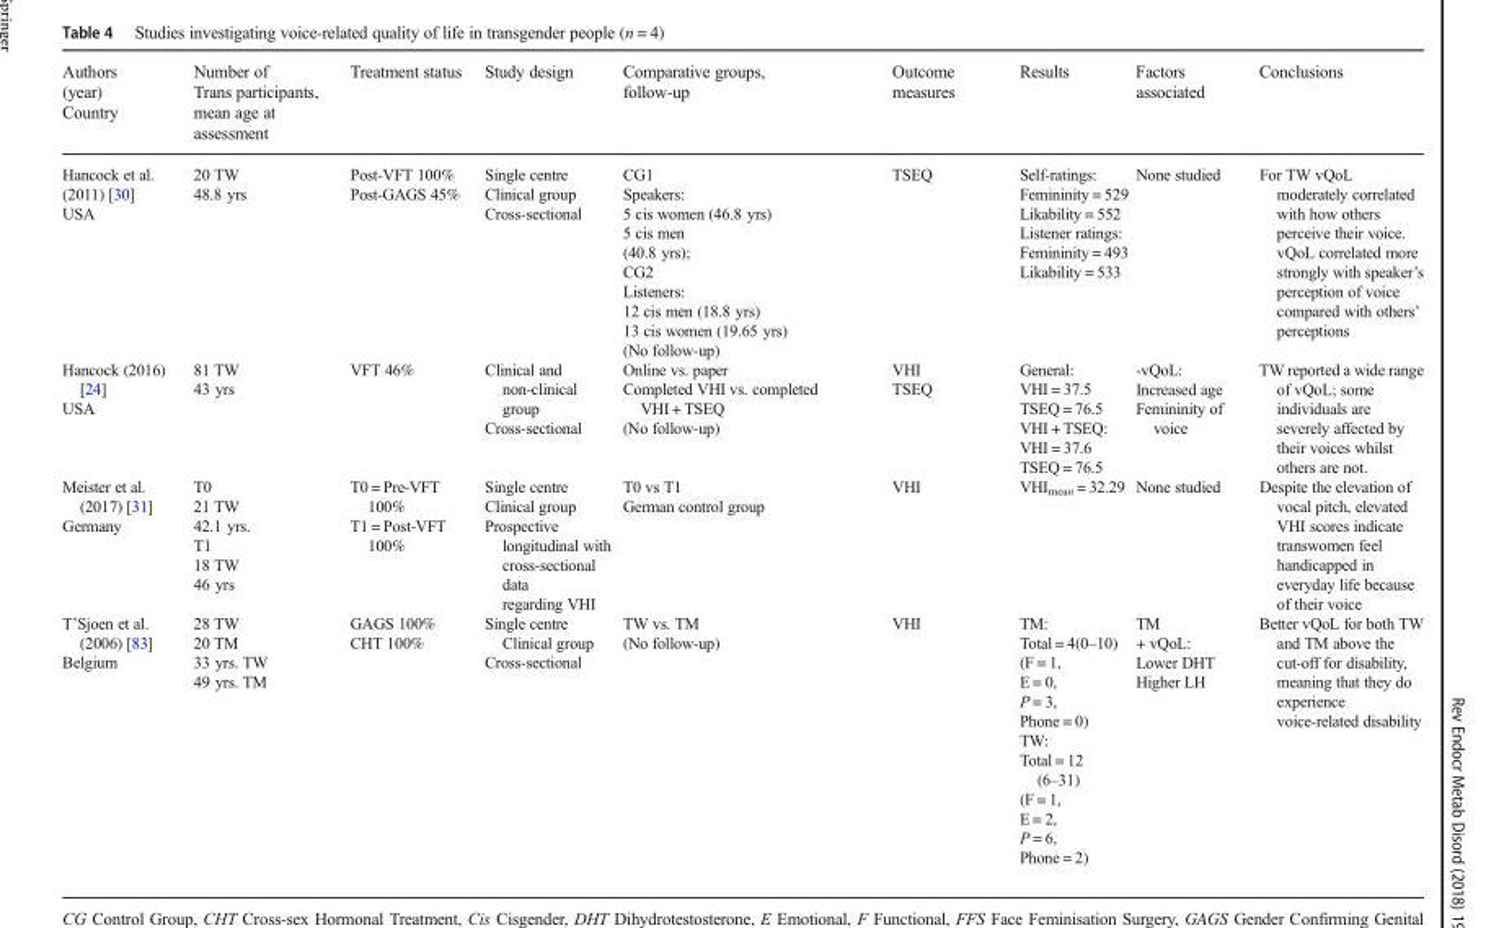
<table><thead><tr><td>Authors (year) Country</td><td>Number of Trans participants, mean age at assessment</td><td>Treatment status</td><td>Study design</td><td>Comparative groups, follow-up</td><td>Outcome measures</td><td>Results</td><td>Factors associated</td><td>Conclusions</td></tr></thead><tbody><tr><td>Hancock et al. (2011) [30] USA</td><td>20 TW 48.8 yrs</td><td>Post-VFT 100% Post-GAGS 45%</td><td>Single centre Clinical group Cross-sectional</td><td>CG1 Speakers: 5 cis women (46.8 yrs) 5 cis men (40.8 yrs); CG2 Listeners: 12 cis men (18.8 yrs) 13 cis women (19.65 yrs) (No follow-up)</td><td>TSEQ</td><td>Self-ratings: Femininity = 529 Likability = 552 Listener ratings: Femininity = 493 Likability = 533</td><td>None studied</td><td>For TW vQoL moderately correlated with how others perceive their voice. vQoL correlated more strongly with speaker’s perception of voice compared with others’ perceptions</td></tr><tr><td>Hancock (2016) [24] USA</td><td>81 TW 43 yrs</td><td>VFT 46%</td><td>Clinical and non-clinical group Cross-sectional</td><td>Online vs. paper Completed VHI vs. completed VHI + TSEQ (No follow-up)</td><td>VHI TSEQ</td><td>General: VHI = 37.5 TSEQ = 76.5 VHI + TSEQ: VHI = 37.6 TSEQ = 76.5</td><td>-vQoL: Increased age Femininity of voice</td><td>TW reported a wide range of vQoL; some individuals are severely affected by their voices whilst others are not.</td></tr><tr><td>Meister et al. (2017) [31] Germany</td><td>T0 21 TW 42.1 yrs. T1 18 TW 46 yrs</td><td>T0 = Pre-VFT 100% T1 = Post-VFT 100%</td><td>Single centre Clinical group Prospective longitudinal with cross-sectional data regarding VHI</td><td>T0 vs T1 German control group</td><td>VHI</td><td>VHI<sub>mean</sub> = 32.29</td><td>None studied</td><td>Despite the elevation of vocal pitch, elevated VHI scores indicate transwomen feel handicapped in everyday life because of their voice</td></tr><tr><td>T’Sjoen et al. (2006) [83] Belgium</td><td>28 TW 20 TM 33 yrs. TW 49 yrs. TM</td><td>GAGS 100% CHT 100%</td><td>Single centre Clinical group Cross-sectional</td><td>TW vs. TM (No follow-up)</td><td>VHI</td><td>TM: Total = 4(0–10) (F = 1, E = 0, P = 3, Phone = 0) TW: Total = 12 (6–31) (F = 1, E = 2, P = 6, Phone = 2)</td><td>TM + vQoL: Lower DHT Higher LH</td><td>Better vQoL for both TW and TM above the cut-off for disability, meaning that they do experience voice-related disability</td></tr></tbody></table>